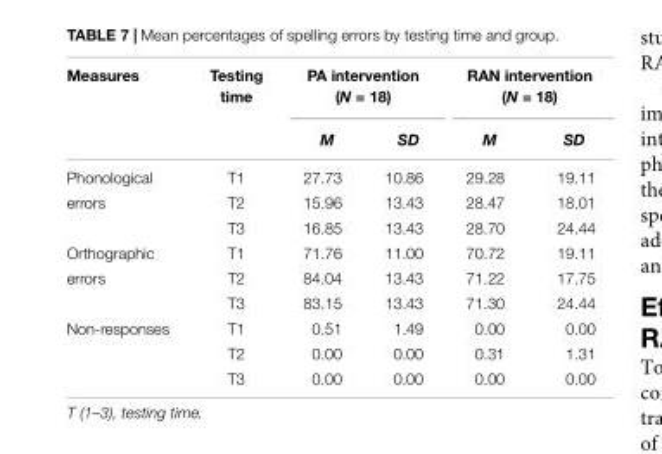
<table><thead><tr><td rowspan="2">Measures</td><td rowspan="2">Testing time</td><td colspan="2">PA intervention (N = 18)</td><td colspan="2">RAN intervention (N = 18)</td></tr><tr><td>M</td><td>SD</td><td>M</td><td>SD</td></tr></thead><tbody><tr><td>Phonological</td><td>T1</td><td>27.73</td><td>10.86</td><td>29.28</td><td>19.11</td></tr><tr><td rowspan="2">errors</td><td>T2</td><td>15.96</td><td>13.43</td><td>28.47</td><td>18.01</td></tr><tr><td>T3</td><td>16.85</td><td>13.43</td><td>28.70</td><td>24.44</td></tr><tr><td>Orthographic</td><td>T1</td><td>71.76</td><td>11.00</td><td>70.72</td><td>19.11</td></tr><tr><td rowspan="2">errors</td><td>T2</td><td>84.04</td><td>13.43</td><td>71.22</td><td>17.75</td></tr><tr><td>T3</td><td>83.15</td><td>13.43</td><td>71.30</td><td>24.44</td></tr><tr><td rowspan="3">Non-responses</td><td>T1</td><td>0.51</td><td>1.49</td><td>0.00</td><td>0.00</td></tr><tr><td>T2</td><td>0.00</td><td>0.00</td><td>0.31</td><td>1.31</td></tr><tr><td>T3</td><td>0.00</td><td>0.00</td><td>0.00</td><td>0.00</td></tr></tbody></table>